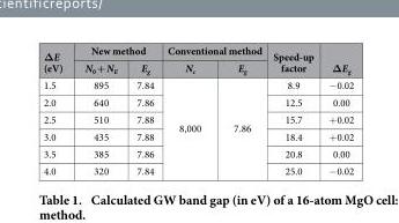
<table><thead><tr><td rowspan="2">ΔE (eV)</td><td colspan="2">New method</td><td colspan="2">Conventional method</td><td rowspan="2">Speed-up factor</td><td rowspan="2">ΔE<sub>g</sub></td></tr><tr><td>N<sub>0</sub> + N<sub>E</sub></td><td>E<sub>g</sub></td><td>N<sub>c</sub></td><td>E<sub>g</sub></td></tr></thead><tbody><tr><td>1.5</td><td>895</td><td>7.84</td><td rowspan="6">8,000</td><td rowspan="6">7.86</td><td>8.9</td><td>− 0.02</td></tr><tr><td>2.0</td><td>640</td><td>7.86</td><td>12.5</td><td>0.00</td></tr><tr><td>2.5</td><td>510</td><td>7.88</td><td>15.7</td><td>+ 0.02</td></tr><tr><td>3.0</td><td>435</td><td>7.88</td><td>18.4</td><td>+ 0.02</td></tr><tr><td>3.5</td><td>385</td><td>7.86</td><td>20.8</td><td>0.00</td></tr><tr><td>4.0</td><td>320</td><td>7.84</td><td>25.0</td><td>− 0.02</td></tr></tbody></table>